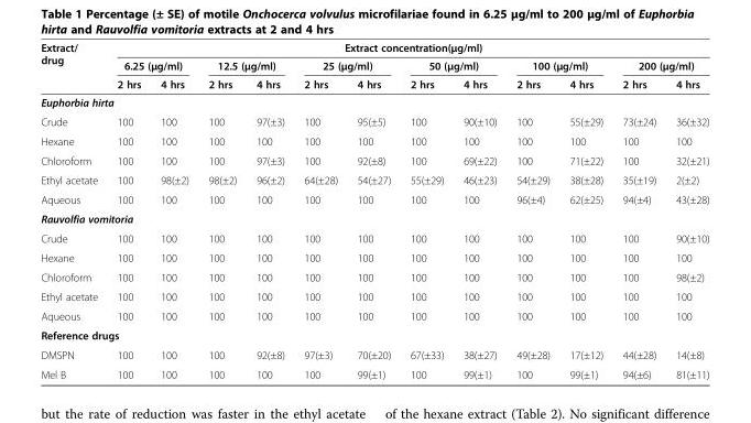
<table><thead><tr><td rowspan="3">Extract/ drug</td><td colspan="12">Extract concentration(μg/ml)</td></tr><tr><td colspan="2">6.25 (μg/ml)</td><td colspan="2">12.5 (μg/ml)</td><td colspan="2">25 (μg/ml)</td><td colspan="2">50 (μg/ml)</td><td colspan="2">100 (μg/ml)</td><td colspan="2">200 (μg/ml)</td></tr><tr><td>2 hrs</td><td>4 hrs</td><td>2 hrs</td><td>4 hrs</td><td>2 hrs</td><td>4 hrs</td><td>2 hrs</td><td>4 hrs</td><td>2 hrs</td><td>4 hrs</td><td>2 hrs</td><td>4 hrs</td></tr></thead><tbody><tr><td colspan="13">Euphorbia hirta</td></tr><tr><td>Crude</td><td>100</td><td>100</td><td>100</td><td>97(±3)</td><td>100</td><td>95(±5)</td><td>100</td><td>90(±10)</td><td>100</td><td>55(±29)</td><td>73(±24)</td><td>36(±32)</td></tr><tr><td>Hexane</td><td>100</td><td>100</td><td>100</td><td>100</td><td>100</td><td>100</td><td>100</td><td>100</td><td>100</td><td>100</td><td>100</td><td>100</td></tr><tr><td>Chloroform</td><td>100</td><td>100</td><td>100</td><td>97(±3)</td><td>100</td><td>92(±8)</td><td>100</td><td>69(±22)</td><td>100</td><td>71(±22)</td><td>100</td><td>32(±21)</td></tr><tr><td>Ethyl acetate</td><td>100</td><td>98(±2)</td><td>98(±2)</td><td>96(±2)</td><td>64(±28)</td><td>54(±27)</td><td>55(±29)</td><td>46(±23)</td><td>54(±29)</td><td>38(±28)</td><td>35(±19)</td><td>2(±2)</td></tr><tr><td>Aqueous</td><td>100</td><td>100</td><td>100</td><td>100</td><td>100</td><td>100</td><td>100</td><td>100</td><td>96(±4)</td><td>62(±25)</td><td>94(±4)</td><td>43(±28)</td></tr><tr><td colspan="13">Rauvolfia vomitoria</td></tr><tr><td>Crude</td><td>100</td><td>100</td><td>100</td><td>100</td><td>100</td><td>100</td><td>100</td><td>100</td><td>100</td><td>100</td><td>100</td><td>90(±10)</td></tr><tr><td>Hexane</td><td>100</td><td>100</td><td>100</td><td>100</td><td>100</td><td>100</td><td>100</td><td>100</td><td>100</td><td>100</td><td>100</td><td>100</td></tr><tr><td>Chloroform</td><td>100</td><td>100</td><td>100</td><td>100</td><td>100</td><td>100</td><td>100</td><td>100</td><td>100</td><td>100</td><td>100</td><td>98(±2)</td></tr><tr><td>Ethyl acetate</td><td>100</td><td>100</td><td>100</td><td>100</td><td>100</td><td>100</td><td>100</td><td>100</td><td>100</td><td>100</td><td>100</td><td>100</td></tr><tr><td>Aqueous</td><td>100</td><td>100</td><td>100</td><td>100</td><td>100</td><td>100</td><td>100</td><td>100</td><td>100</td><td>100</td><td>100</td><td>100</td></tr><tr><td colspan="13">Reference drugs</td></tr><tr><td>DMSPN</td><td>100</td><td>100</td><td>100</td><td>92(±8)</td><td>97(±3)</td><td>70(±20)</td><td>67(±33)</td><td>38(±27)</td><td>49(±28)</td><td>17(±12)</td><td>44(±28)</td><td>14(±8)</td></tr><tr><td>Mel B</td><td>100</td><td>100</td><td>100</td><td>100</td><td>100</td><td>99(±1)</td><td>100</td><td>99(±1)</td><td>100</td><td>99(±1)</td><td>94(±6)</td><td>81(±11)</td></tr></tbody></table>